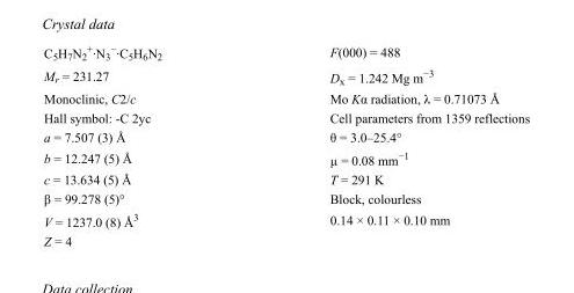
<table><tbody><tr><td>C<sub>5</sub>H<sub>7</sub>N<sub>2</sub> <sup>+</sup>·N<sub>3</sub> <sup>−</sup>·C<sub>5</sub>H<sub>6</sub>N<sub>2</sub></td><td>F(000) = 488</td></tr><tr><td>M<sub>r</sub> = 231.27</td><td>D<sub>x</sub> = 1.242 Mg m<sup>−3</sup></td></tr><tr><td>Monoclinic, C2/c</td><td>Mo Kα radiation, λ = 0.71073 Å</td></tr><tr><td>Hall symbol: -C 2yc</td><td>Cell parameters from 1359 reflections</td></tr><tr><td>a = 7.507 (3) Å</td><td>θ = 3.0–25.4°</td></tr><tr><td>b = 12.247 (5) Å</td><td>µ = 0.08 mm<sup>−1</sup></td></tr><tr><td>c = 13.634 (5) Å</td><td>T = 291 K</td></tr><tr><td>β = 99.278 (5)°</td><td>Block, colourless</td></tr><tr><td>V = 1237.0 (8) Å<sup>3</sup></td><td>0.14 × 0.11 × 0.10 mm</td></tr><tr><td>Z = 4</td><td></td></tr></tbody></table>